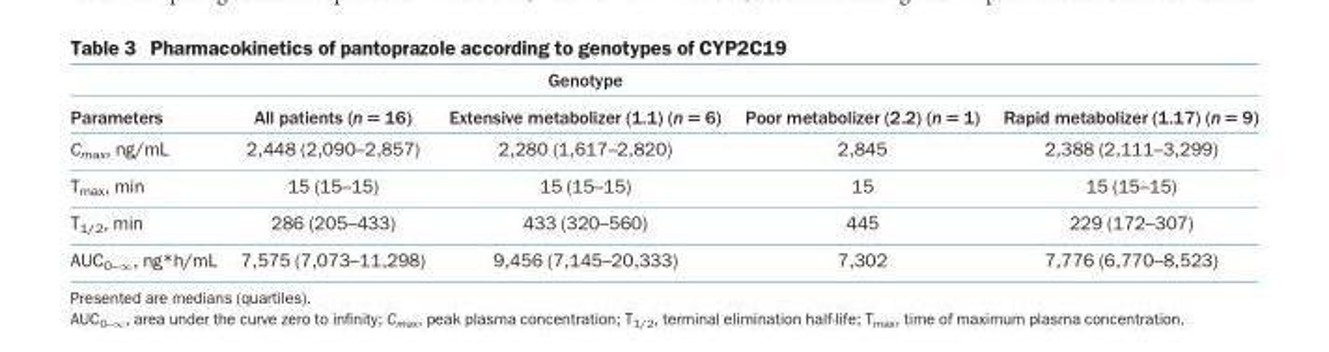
<table><thead><tr><td rowspan="2">Parameters</td><td rowspan="2">All patients (n = 16)</td><td rowspan="2">Genotype Extensive metabolizer (1.1) (n = 6)</td><td rowspan="2">Poor metabolizer (2.2) (n = 1)</td><td rowspan="2">Rapid metabolizer (1.17) (n = 9)</td></tr><tr></tr></thead><tbody><tr><td>C<sub>max</sub>, ng/mL</td><td>2,448 (2,090–2,857)</td><td>2,280 (1,617–2,820)</td><td>2,845</td><td>2,388 (2,111–3,299)</td></tr><tr><td>T<sub>max</sub>, min</td><td>15 (15–15)</td><td>15 (15–15)</td><td>15</td><td>15 (15–15)</td></tr><tr><td>T<sub>1/2</sub>, min</td><td>286 (205–433)</td><td>433 (320–560)</td><td>445</td><td>229 (172–307)</td></tr><tr><td>AUC<sub>0–∞</sub>, ng*h/mL</td><td>7,575 (7,073–11,298)</td><td>9,456 (7,145–20,333)</td><td>7,302</td><td>7,776 (6,770–8,523)</td></tr></tbody></table>